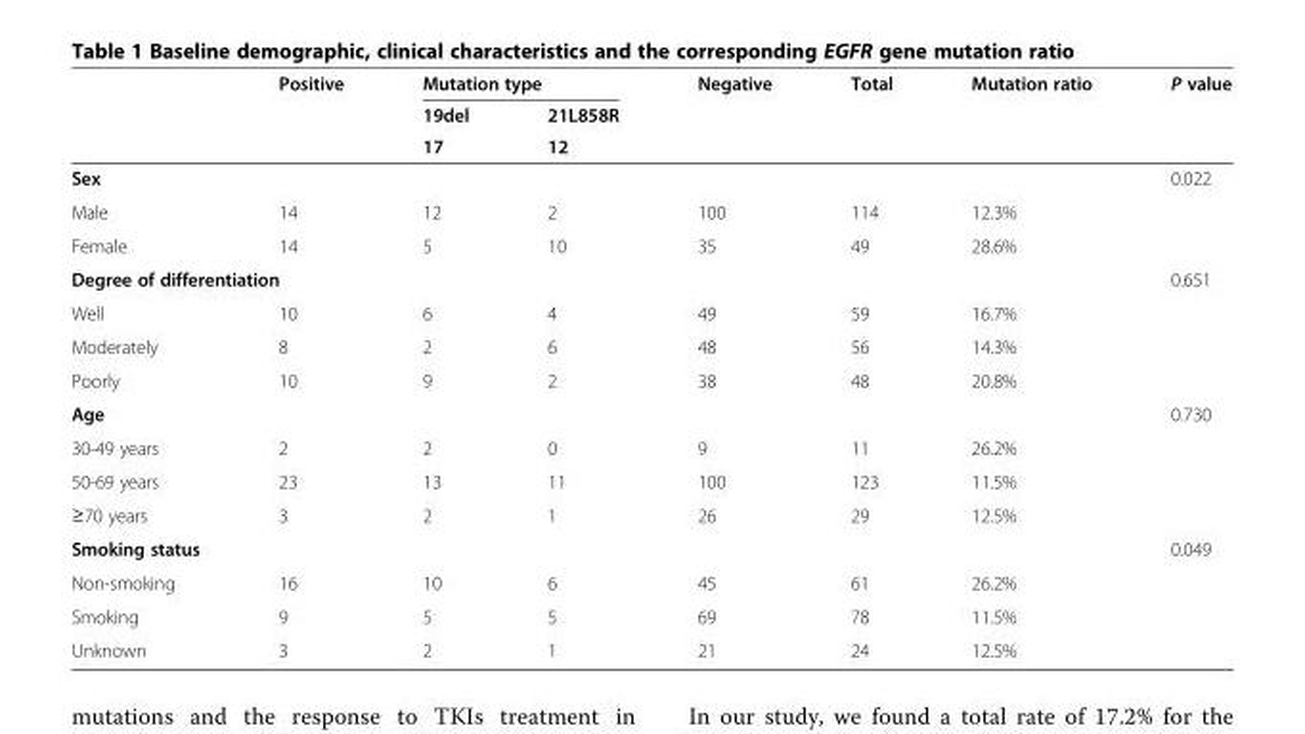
<table><thead><tr><td rowspan="3"></td><td rowspan="3">Positive</td><td colspan="2">Mutation type</td><td rowspan="3">Negative</td><td rowspan="3">Total</td><td rowspan="3">Mutation ratio</td><td rowspan="3">P value</td></tr><tr><td rowspan="2">19del 17</td><td rowspan="2">21L858R 12</td></tr><tr></tr></thead><tbody><tr><td colspan="7">Sex</td><td rowspan="3">0.022</td></tr><tr><td>Male</td><td>14</td><td>12</td><td>2</td><td>100</td><td>114</td><td>12.3%</td></tr><tr><td>Female</td><td>14</td><td>5</td><td>10</td><td>35</td><td>49</td><td>28.6%</td></tr><tr><td colspan="7">Degree of differentiation</td><td rowspan="4">0.651</td></tr><tr><td>Well</td><td>10</td><td>6</td><td>4</td><td>49</td><td>59</td><td>16.7%</td></tr><tr><td>Moderately</td><td>8</td><td>2</td><td>6</td><td>48</td><td>56</td><td>14.3%</td></tr><tr><td>Poorly</td><td>10</td><td>9</td><td>2</td><td>38</td><td>48</td><td>20.8%</td></tr><tr><td colspan="7">Age</td><td rowspan="4">0.730</td></tr><tr><td>30-49 years</td><td>2</td><td>2</td><td>0</td><td>9</td><td>11</td><td>26.2%</td></tr><tr><td>50-69 years</td><td>23</td><td>13</td><td>11</td><td>100</td><td>123</td><td>11.5%</td></tr><tr><td>≥70 years</td><td>3</td><td>2</td><td>1</td><td>26</td><td>29</td><td>12.5%</td></tr><tr><td colspan="7">Smoking status</td><td rowspan="4">0.049</td></tr><tr><td>Non-smoking</td><td>16</td><td>10</td><td>6</td><td>45</td><td>61</td><td>26.2%</td></tr><tr><td>Smoking</td><td>9</td><td>5</td><td>5</td><td>69</td><td>78</td><td>11.5%</td></tr><tr><td>Unknown</td><td>3</td><td>2</td><td>1</td><td>21</td><td>24</td><td>12.5%</td></tr></tbody></table>